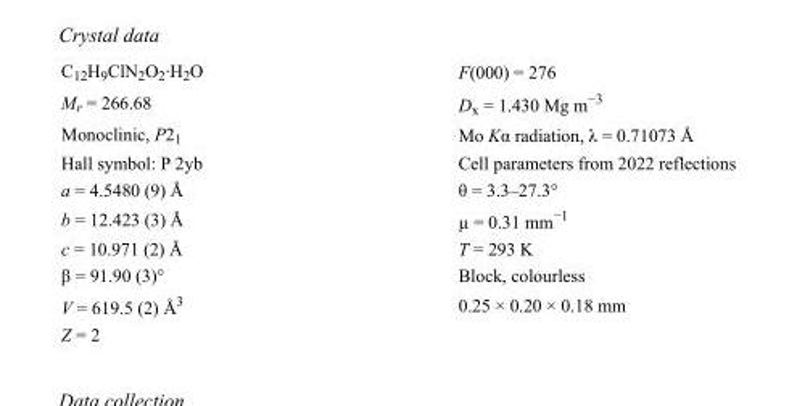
<table><tbody><tr><td>C<sub>12</sub>H<sub>9</sub>ClN<sub>2</sub>O<sub>2</sub>·H<sub>2</sub>O</td><td>F(000) = 276</td></tr><tr><td>M<sub>r</sub> = 266.68</td><td>D<sub>x</sub> = 1.430 Mg m<sup>−3</sup></td></tr><tr><td>Monoclinic, P2<sub>1</sub></td><td>Mo Kα radiation, λ = 0.71073 Å</td></tr><tr><td>Hall symbol: P 2yb</td><td>Cell parameters from 2022 reflections</td></tr><tr><td>a = 4.5480 (9) Å</td><td>θ = 3.3–27.3°</td></tr><tr><td>b = 12.423 (3) Å</td><td>µ = 0.31 mm<sup>−1</sup></td></tr><tr><td>c = 10.971 (2) Å</td><td>T = 293 K</td></tr><tr><td>β = 91.90 (3)°</td><td>Block, colourless</td></tr><tr><td>V = 619.5 (2) Å<sup>3</sup></td><td>0.25 × 0.20 × 0.18 mm</td></tr><tr><td>Z = 2</td><td></td></tr></tbody></table>